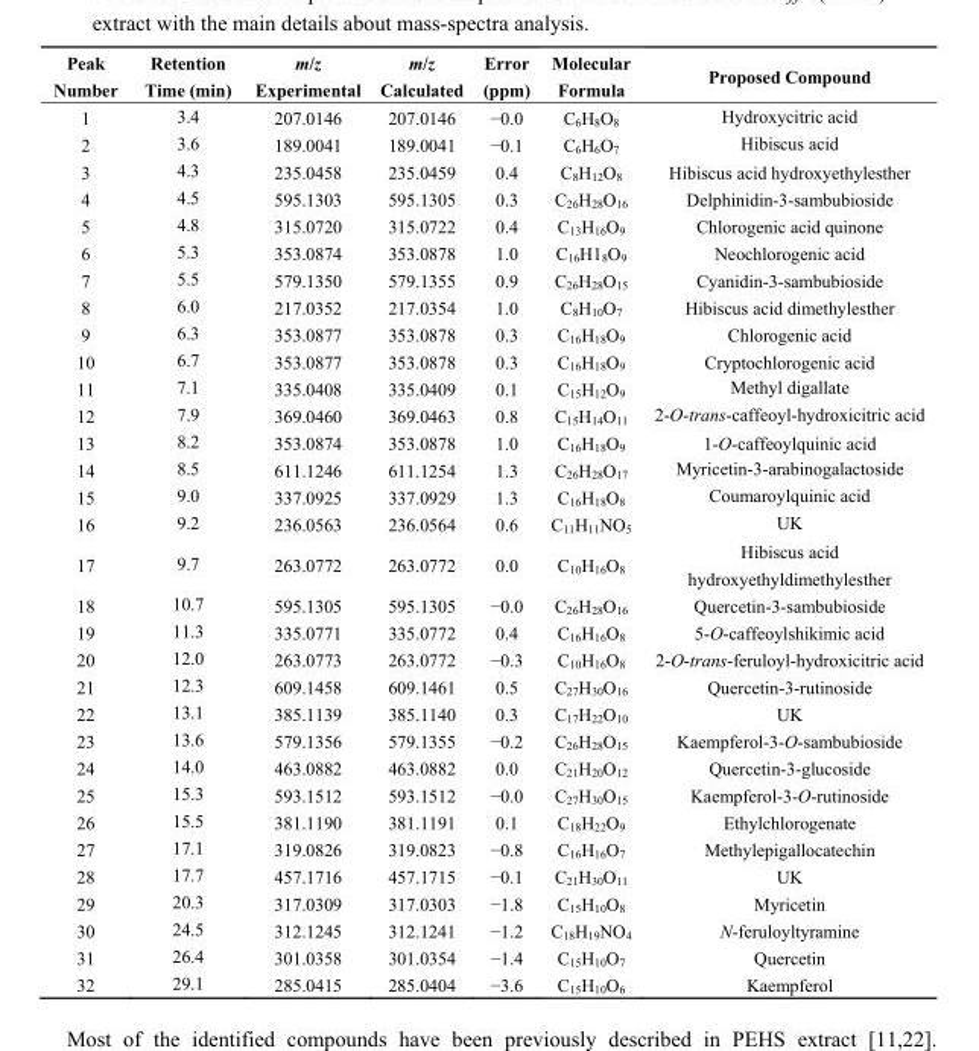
<table><thead><tr><td>Peak Number</td><td>Retention Time (min)</td><td>m/z Experimental</td><td>m/z Calculated</td><td>Error (ppm)</td><td>Molecular Formula</td><td>Proposed Compound</td></tr></thead><tbody><tr><td>1</td><td>3.4</td><td>207.0146</td><td>207.0146</td><td>−0.0</td><td>C<sub>6</sub>H<sub>8</sub>O<sub>8</sub></td><td>Hydroxycitric acid</td></tr><tr><td>2</td><td>3.6</td><td>189.0041</td><td>189.0041</td><td>−0.1</td><td>C<sub>6</sub>H<sub>6</sub>O<sub>7</sub></td><td>Hibiscus acid</td></tr><tr><td>3</td><td>4.3</td><td>235.0458</td><td>235.0459</td><td>0.4</td><td>C<sub>8</sub>H<sub>12</sub>O<sub>8</sub></td><td>Hibiscus acid hydroxyethylesther</td></tr><tr><td>4</td><td>4.5</td><td>595.1303</td><td>595.1305</td><td>0.3</td><td>C<sub>26</sub>H<sub>28</sub>O<sub>16</sub></td><td>Delphinidin-3-sambubioside</td></tr><tr><td>5</td><td>4.8</td><td>315.0720</td><td>315.0722</td><td>0.4</td><td>C<sub>13</sub>H<sub>16</sub>O<sub>9</sub></td><td>Chlorogenic acid quinone</td></tr><tr><td>6</td><td>5.3</td><td>353.0874</td><td>353.0878</td><td>1.0</td><td>C<sub>16</sub>H1<sub>8</sub>O<sub>9</sub></td><td>Neochlorogenic acid</td></tr><tr><td>7</td><td>5.5</td><td>579.1350</td><td>579.1355</td><td>0.9</td><td>C<sub>26</sub>H<sub>28</sub>O<sub>15</sub></td><td>Cyanidin-3-sambubioside</td></tr><tr><td>8</td><td>6.0</td><td>217.0352</td><td>217.0354</td><td>1.0</td><td>C<sub>8</sub>H<sub>10</sub>O<sub>7</sub></td><td>Hibiscus acid dimethylesther</td></tr><tr><td>9</td><td>6.3</td><td>353.0877</td><td>353.0878</td><td>0.3</td><td>C<sub>16</sub>H<sub>18</sub>O<sub>9</sub></td><td>Chlorogenic acid</td></tr><tr><td>10</td><td>6.7</td><td>353.0877</td><td>353.0878</td><td>0.3</td><td>C<sub>16</sub>H<sub>18</sub>O<sub>9</sub></td><td>Cryptochlorogenic acid</td></tr><tr><td>11</td><td>7.1</td><td>335.0408</td><td>335.0409</td><td>0.1</td><td>C<sub>15</sub>H<sub>12</sub>O<sub>9</sub></td><td>Methyl digallate</td></tr><tr><td>12</td><td>7.9</td><td>369.0460</td><td>369.0463</td><td>0.8</td><td>C<sub>15</sub>H<sub>14</sub>O<sub>11</sub></td><td>2-O-trans-caffeoyl-hydroxicitric acid</td></tr><tr><td>13</td><td>8.2</td><td>353.0874</td><td>353.0878</td><td>1.0</td><td>C<sub>16</sub>H<sub>18</sub>O<sub>9</sub></td><td>1-O-caffeoylquinic acid</td></tr><tr><td>14</td><td>8.5</td><td>611.1246</td><td>611.1254</td><td>1.3</td><td>C<sub>26</sub>H<sub>28</sub>O<sub>17</sub></td><td>Myricetin-3-arabinogalactoside</td></tr><tr><td>15</td><td>9.0</td><td>337.0925</td><td>337.0929</td><td>1.3</td><td>C<sub>16</sub>H<sub>18</sub>O<sub>8</sub></td><td>Coumaroylquinic acid</td></tr><tr><td>16</td><td>9.2</td><td>236.0563</td><td>236.0564</td><td>0.6</td><td>C<sub>11</sub>H<sub>11</sub>NO<sub>5</sub></td><td>UK</td></tr><tr><td>17</td><td>9.7</td><td>263.0772</td><td>263.0772</td><td>0.0</td><td>C<sub>10</sub>H<sub>16</sub>O<sub>8</sub></td><td>Hibiscus acid hydroxyethyldimethylesther</td></tr><tr><td>18</td><td>10.7</td><td>595.1305</td><td>595.1305</td><td>−0.0</td><td>C<sub>26</sub>H<sub>28</sub>O<sub>16</sub></td><td>Quercetin-3-sambubioside</td></tr><tr><td>19</td><td>11.3</td><td>335.0771</td><td>335.0772</td><td>0.4</td><td>C<sub>16</sub>H<sub>16</sub>O<sub>8</sub></td><td>5-O-caffeoylshikimic acid</td></tr><tr><td>20</td><td>12.0</td><td>263.0773</td><td>263.0772</td><td>−0.3</td><td>C<sub>10</sub>H<sub>16</sub>O<sub>8</sub></td><td>2-O-trans-feruloyl-hydroxicitric acid</td></tr><tr><td>21</td><td>12.3</td><td>609.1458</td><td>609.1461</td><td>0.5</td><td>C<sub>27</sub>H<sub>30</sub>O<sub>16</sub></td><td>Quercetin-3-rutinoside</td></tr><tr><td>22</td><td>13.1</td><td>385.1139</td><td>385.1140</td><td>0.3</td><td>C<sub>17</sub>H<sub>22</sub>O<sub>10</sub></td><td>UK</td></tr><tr><td>23</td><td>13.6</td><td>579.1356</td><td>579.1355</td><td>−0.2</td><td>C<sub>26</sub>H<sub>28</sub>O<sub>15</sub></td><td>Kaempferol-3-O-sambubioside</td></tr><tr><td>24</td><td>14.0</td><td>463.0882</td><td>463.0882</td><td>0.0</td><td>C<sub>21</sub>H<sub>20</sub>O<sub>12</sub></td><td>Quercetin-3-glucoside</td></tr><tr><td>25</td><td>15.3</td><td>593.1512</td><td>593.1512</td><td>−0.0</td><td>C<sub>27</sub>H<sub>30</sub>O<sub>15</sub></td><td>Kaempferol-3-O-rutinoside</td></tr><tr><td>26</td><td>15.5</td><td>381.1190</td><td>381.1191</td><td>0.1</td><td>C<sub>18</sub>H<sub>22</sub>O<sub>9</sub></td><td>Ethylchlorogenate</td></tr><tr><td>27</td><td>17.1</td><td>319.0826</td><td>319.0823</td><td>−0.8</td><td>C<sub>16</sub>H<sub>16</sub>O<sub>7</sub></td><td>Methylepigallocatechin</td></tr><tr><td>28</td><td>17.7</td><td>457.1716</td><td>457.1715</td><td>−0.1</td><td>C<sub>21</sub>H<sub>30</sub>O<sub>11</sub></td><td>UK</td></tr><tr><td>29</td><td>20.3</td><td>317.0309</td><td>317.0303</td><td>−1.8</td><td>C<sub>15</sub>H<sub>10</sub>O<sub>8</sub></td><td>Myricetin</td></tr><tr><td>30</td><td>24.5</td><td>312.1245</td><td>312.1241</td><td>−1.2</td><td>C<sub>18</sub>H<sub>19</sub>NO<sub>4</sub></td><td>N-feruloyltyramine</td></tr><tr><td>31</td><td>26.4</td><td>301.0358</td><td>301.0354</td><td>−1.4</td><td>C<sub>15</sub>H<sub>10</sub>O<sub>7</sub></td><td>Quercetin</td></tr><tr><td>32</td><td>29.1</td><td>285.0415</td><td>285.0404</td><td>−3.6</td><td>C<sub>15</sub>H<sub>10</sub>O<sub>6</sub></td><td>Kaempferol</td></tr></tbody></table>